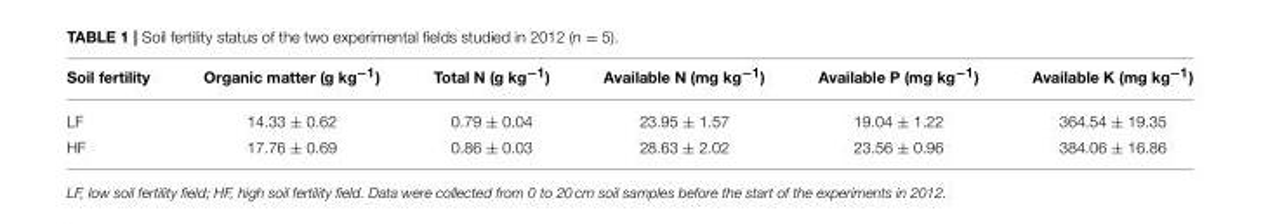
<table><thead><tr><td>Soil fertility</td><td>Organic matter (g kg<sup>−1</sup>)</td><td>Total N (g kg<sup>−1</sup>)</td><td>Available N (mg kg<sup>−1</sup>)</td><td>Available P (mg kg<sup>−1</sup>)</td><td>Available K (mg kg<sup>−1</sup>)</td></tr></thead><tbody><tr><td>LF</td><td>14.33 ± 0.62</td><td>0.79 ± 0.04</td><td>23.95 ± 1.57</td><td>19.04 ± 1.22</td><td>364.54 ± 19.35</td></tr><tr><td>HF</td><td>17.76 ± 0.69</td><td>0.86 ± 0.03</td><td>28.63 ± 2.02</td><td>23.56 ± 0.96</td><td>384.06 ± 16.86</td></tr></tbody></table>